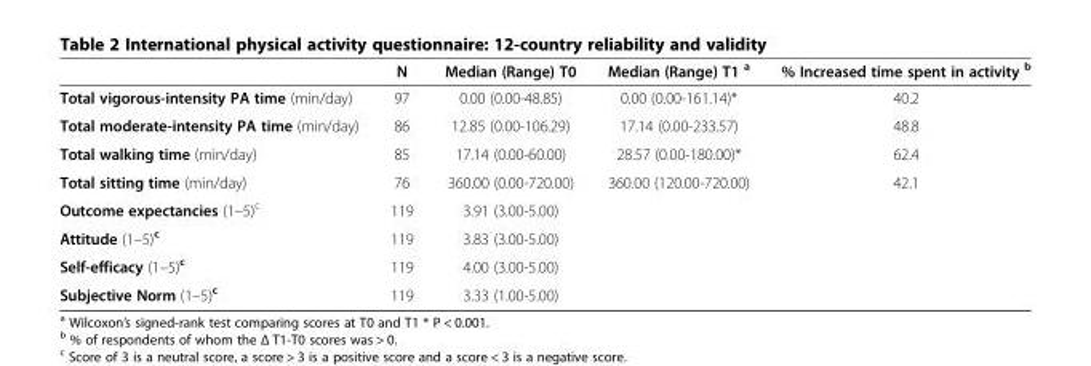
<table><thead><tr><td></td><td>N</td><td>Median (Range) T0</td><td>Median (Range) T1 <sup>a</sup></td><td>% Increased time spent in activity <sup>b</sup></td></tr></thead><tbody><tr><td>Total vigorous-intensity PA time (min/day)</td><td>97</td><td>0.00 (0.00-48.85)</td><td>0.00 (0.00-161.14)*</td><td>40.2</td></tr><tr><td>Total moderate-intensity PA time (min/day)</td><td>86</td><td>12.85 (0.00-106.29)</td><td>17.14 (0.00-233.57)</td><td>48.8</td></tr><tr><td>Total walking time (min/day)</td><td>85</td><td>17.14 (0.00-60.00)</td><td>28.57 (0.00-180.00)*</td><td>62.4</td></tr><tr><td>Total sitting time (min/day)</td><td>76</td><td>360.00 (0.00-720.00)</td><td>360.00 (120.00-720.00)</td><td>42.1</td></tr><tr><td>Outcome expectancies (1–5)<sup>c</sup></td><td>119</td><td>3.91 (3.00-5.00)</td><td></td><td></td></tr><tr><td>Attitude (1–5)<sup>c</sup></td><td>119</td><td>3.83 (3.00-5.00)</td><td></td><td></td></tr><tr><td>Self-efficacy (1–5)<sup>c</sup></td><td>119</td><td>4.00 (3.00-5.00)</td><td></td><td></td></tr><tr><td>Subjective Norm (1–5)<sup>c</sup></td><td>119</td><td>3.33 (1.00-5.00)</td><td></td><td></td></tr></tbody></table>